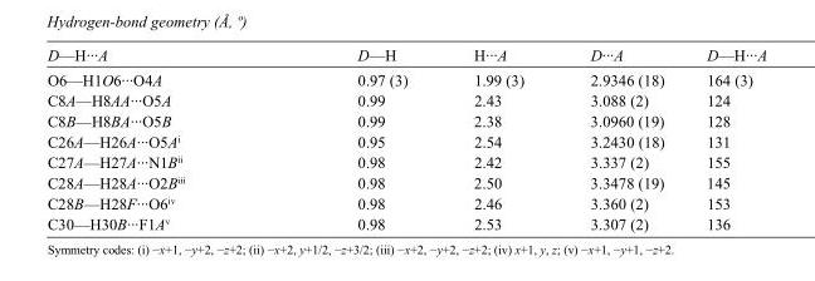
<table><tbody><tr><td>D—H···A</td><td>D—H</td><td>H···A</td><td>D···A</td><td>D—H···A</td></tr><tr><td>O6—H1O6···O4A</td><td>0.97 (3)</td><td>1.99 (3)</td><td>2.9346 (18)</td><td>164 (3)</td></tr><tr><td>C8A—H8AA···O5A</td><td>0.99</td><td>2.43</td><td>3.088 (2)</td><td>124</td></tr><tr><td>C8B—H8BA···O5B</td><td>0.99</td><td>2.38</td><td>3.0960 (19)</td><td>128</td></tr><tr><td>C26A—H26A···O5A<sup>i</sup></td><td>0.95</td><td>2.54</td><td>3.2430 (18)</td><td>131</td></tr><tr><td>C27A—H27A···N1B<sup>ii</sup></td><td>0.98</td><td>2.42</td><td>3.337 (2)</td><td>155</td></tr><tr><td>C28A—H28A···O2B<sup>iii</sup></td><td>0.98</td><td>2.50</td><td>3.3478 (19)</td><td>145</td></tr><tr><td>C28B—H28F···O6<sup>iv</sup></td><td>0.98</td><td>2.46</td><td>3.360 (2)</td><td>153</td></tr><tr><td>C30—H30B···F1A<sup>v</sup></td><td>0.98</td><td>2.53</td><td>3.307 (2)</td><td>136</td></tr></tbody></table>